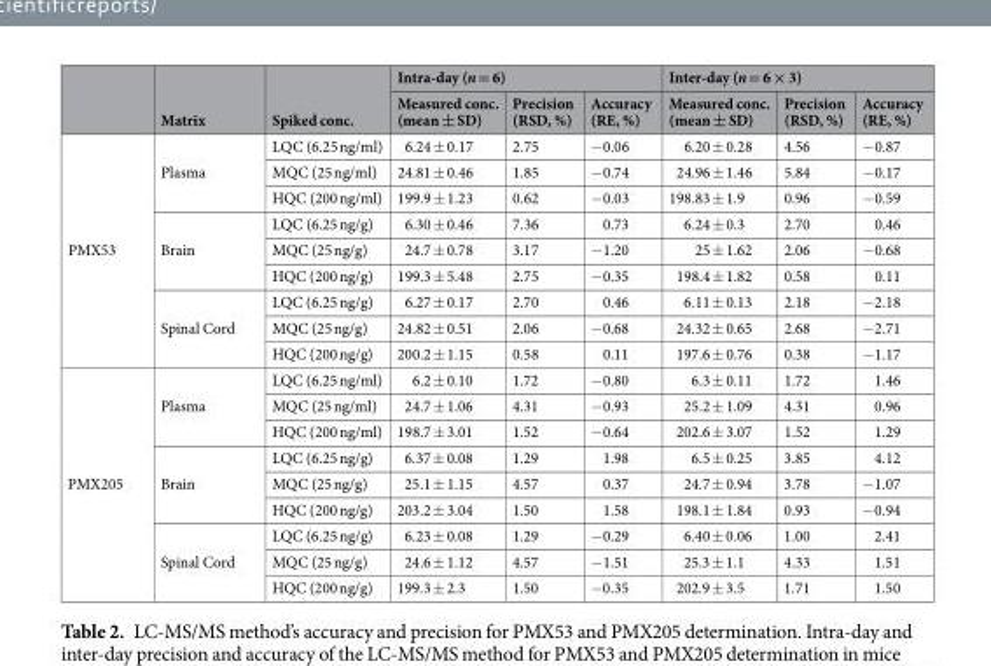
<table><thead><tr><td rowspan="2"></td><td rowspan="2">Matrix</td><td rowspan="2">Spiked conc.</td><td colspan="3">Intra-day (n = 6)</td><td colspan="3">Inter-day (n = 6 × 3)</td></tr><tr><td>Measured conc. (mean ± SD)</td><td>Precision (RSD, %)</td><td>Accuracy (RE, %)</td><td>Measured conc. (mean ± SD)</td><td>Precision (RSD, %)</td><td>Accuracy (RE, %)</td></tr></thead><tbody><tr><td rowspan="9">PMX53</td><td rowspan="3">Plasma</td><td>LQC (6.25 ng/ml)</td><td>6.24 ± 0.17</td><td>2.75</td><td>−0.06</td><td>6.20 ± 0.28</td><td>4.56</td><td>−0.87</td></tr><tr><td>MQC (25 ng/ml)</td><td>24.81 ± 0.46</td><td>1.85</td><td>−0.74</td><td>24.96 ± 1.46</td><td>5.84</td><td>−0.17</td></tr><tr><td>HQC (200 ng/ml)</td><td>199.9 ± 1.23</td><td>0.62</td><td>−0.03</td><td>198.83 ± 1.9</td><td>0.96</td><td>−0.59</td></tr><tr><td rowspan="3">Brain</td><td>LQC (6.25 ng/g)</td><td>6.30 ± 0.46</td><td>7.36</td><td>0.73</td><td>6.24 ± 0.3</td><td>2.70</td><td>0.46</td></tr><tr><td>MQC (25 ng/g)</td><td>24.7 ± 0.78</td><td>3.17</td><td>−1.20</td><td>25 ± 1.62</td><td>2.06</td><td>−0.68</td></tr><tr><td>HQC (200 ng/g)</td><td>199.3 ± 5.48</td><td>2.75</td><td>−0.35</td><td>198.4 ± 1.82</td><td>0.58</td><td>0.11</td></tr><tr><td rowspan="3">Spinal Cord</td><td>LQC (6.25 ng/g)</td><td>6.27 ± 0.17</td><td>2.70</td><td>0.46</td><td>6.11 ± 0.13</td><td>2.18</td><td>−2.18</td></tr><tr><td>MQC (25 ng/g)</td><td>24.82 ± 0.51</td><td>2.06</td><td>−0.68</td><td>24.32 ± 0.65</td><td>2.68</td><td>−2.71</td></tr><tr><td>HQC (200 ng/g)</td><td>200.2 ± 1.15</td><td>0.58</td><td>0.11</td><td>197.6 ± 0.76</td><td>0.38</td><td>−1.17</td></tr><tr><td rowspan="9">PMX205</td><td rowspan="3">Plasma</td><td>LQC (6.25 ng/ml)</td><td>6.2 ± 0.10</td><td>1.72</td><td>−0.80</td><td>6.3 ± 0.11</td><td>1.72</td><td>1.46</td></tr><tr><td>MQC (25 ng/ml)</td><td>24.7 ± 1.06</td><td>4.31</td><td>−0.93</td><td>25.2 ± 1.09</td><td>4.31</td><td>0.96</td></tr><tr><td>HQC (200 ng/ml)</td><td>198.7 ± 3.01</td><td>1.52</td><td>−0.64</td><td>202.6 ± 3.07</td><td>1.52</td><td>1.29</td></tr><tr><td rowspan="3">Brain</td><td>LQC (6.25 ng/g)</td><td>6.37 ± 0.08</td><td>1.29</td><td>1.98</td><td>6.5 ± 0.25</td><td>3.85</td><td>4.12</td></tr><tr><td>MQC (25 ng/g)</td><td>25.1 ± 1.15</td><td>4.57</td><td>0.37</td><td>24.7 ± 0.94</td><td>3.78</td><td>−1.07</td></tr><tr><td>HQC (200 ng/g)</td><td>203.2 ± 3.04</td><td>1.50</td><td>1.58</td><td>198.1 ± 1.84</td><td>0.93</td><td>−0.94</td></tr><tr><td rowspan="3">Spinal Cord</td><td>LQC (6.25 ng/g)</td><td>6.23 ± 0.08</td><td>1.29</td><td>−0.29</td><td>6.40 ± 0.06</td><td>1.00</td><td>2.41</td></tr><tr><td>MQC (25 ng/g)</td><td>24.6 ± 1.12</td><td>4.57</td><td>−1.51</td><td>25.3 ± 1.1</td><td>4.33</td><td>1.51</td></tr><tr><td>HQC (200 ng/g)</td><td>199.3 ± 2.3</td><td>1.50</td><td>−0.35</td><td>202.9 ± 3.5</td><td>1.71</td><td>1.50</td></tr></tbody></table>